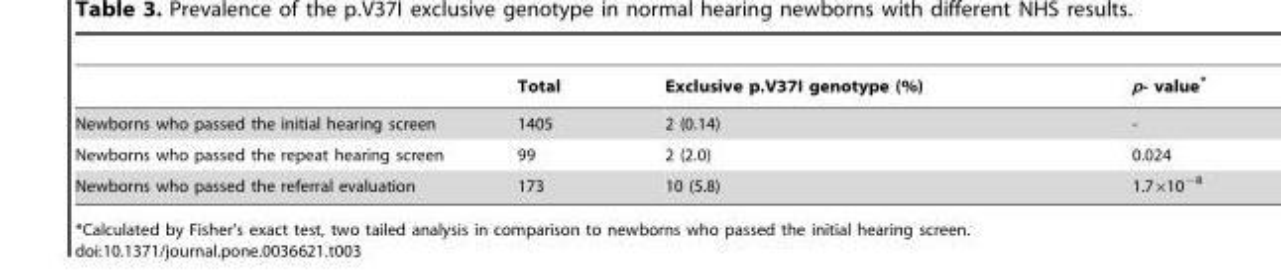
<table><thead><tr><td></td><td>Total</td><td>Exclusive p.V37I genotype (%)</td><td>p- value*</td></tr></thead><tbody><tr><td>Newborns who passed the initial hearing screen</td><td>1405</td><td>2 (0.14)</td><td>-</td></tr><tr><td>Newborns who passed the repeat hearing screen</td><td>99</td><td>2 (2.0)</td><td>0.024</td></tr><tr><td>Newborns who passed the referral evaluation</td><td>173</td><td>10 (5.8)</td><td>1.7×10<sup>−8</sup></td></tr></tbody></table>